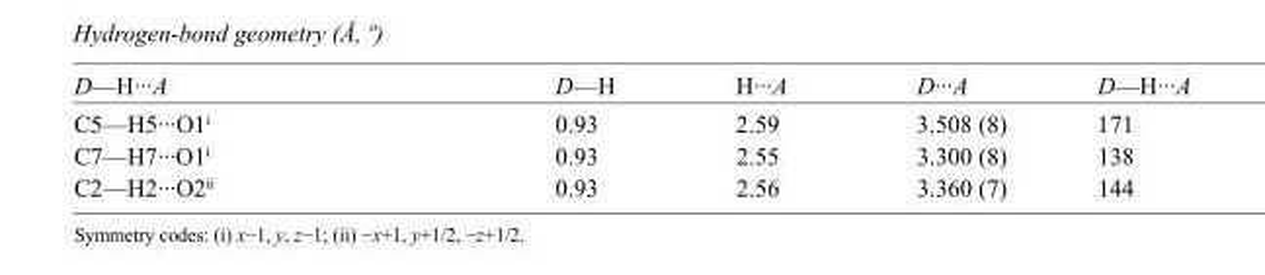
<table><tbody><tr><td>D—H···A</td><td>D—H</td><td>H···A</td><td>D···A</td><td>D—H···A</td></tr><tr><td>C5—H5···O1<sup>i</sup></td><td>0.93</td><td>2.59</td><td>3.508 (8)</td><td>171</td></tr><tr><td>C7—H7···O1<sup>i</sup></td><td>0.93</td><td>2.55</td><td>3.300 (8)</td><td>138</td></tr><tr><td>C2—H2···O2<sup>ii</sup></td><td>0.93</td><td>2.56</td><td>3.360 (7)</td><td>144</td></tr></tbody></table>